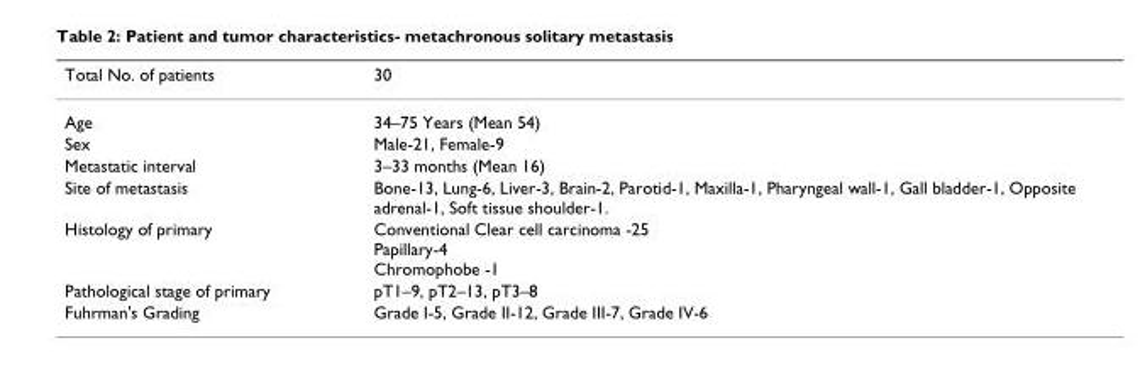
<table><thead><tr><td>Total No. of patients</td><td>30</td></tr></thead><tbody><tr><td>Age</td><td>34–75 Years (Mean 54)</td></tr><tr><td>Sex</td><td>Male-21, Female-9</td></tr><tr><td>Metastatic interval</td><td>3–33 months (Mean 16)</td></tr><tr><td>Site of metastasis</td><td>Bone-13, Lung-6, Liver-3, Brain-2, Parotid-1, Maxilla-1, Pharyngeal wall-1, Gall bladder-1, Opposite adrenal-1, Soft tissue shoulder-1.</td></tr><tr><td>Histology of primary</td><td>Conventional Clear cell carcinoma -25 Papillary-4 Chromophobe -1</td></tr><tr><td>Pathological stage of primary</td><td>pT1–9, pT2–13, pT3–8</td></tr><tr><td>Fuhrman&#x27;s Grading</td><td>Grade I-5, Grade II-12, Grade III-7, Grade IV-6</td></tr></tbody></table>